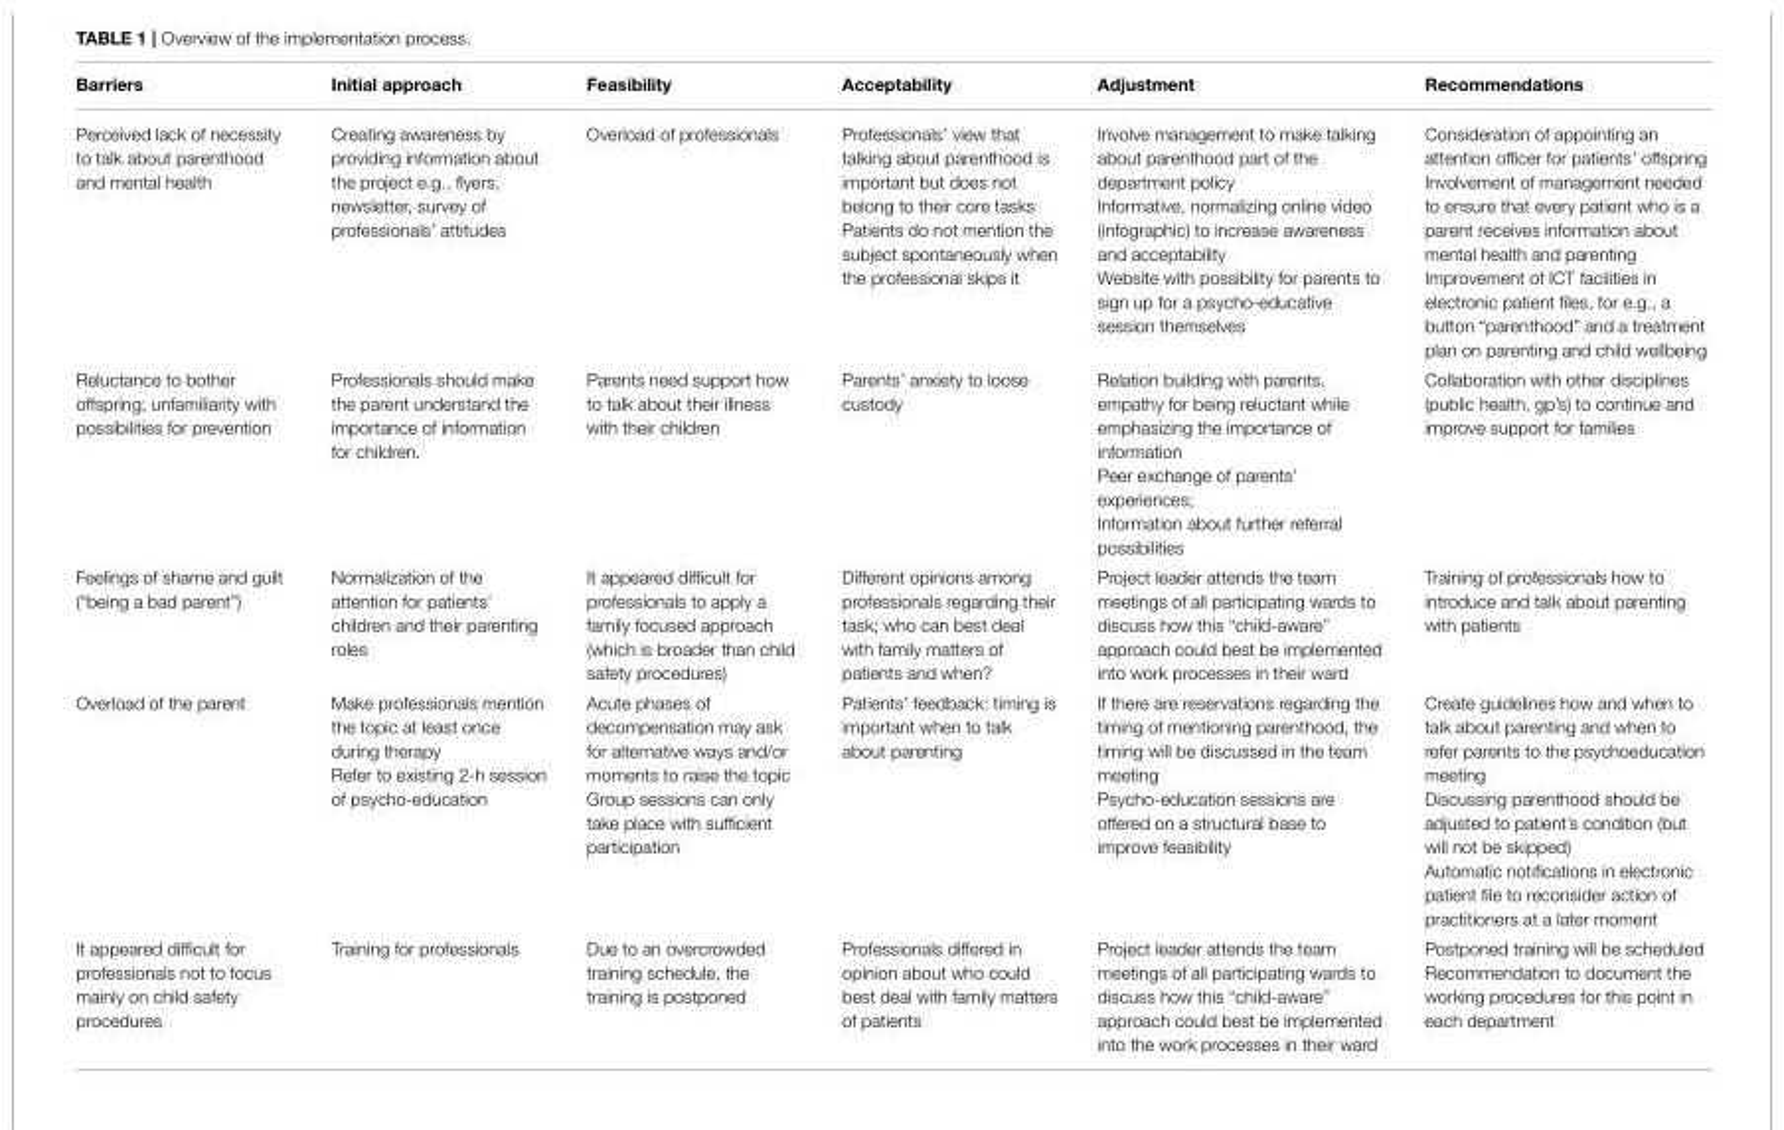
<table><thead><tr><td>Barriers</td><td>Initial approach</td><td>Feasibility</td><td>Acceptability</td><td>Adjustment</td><td>Recommendations</td></tr></thead><tbody><tr><td>Perceived lack of necessity to talk about parenthood and mental health</td><td>Creating awareness by providing information about the project e.g., flyers, newsletter, survey of professionals’ attitudes</td><td>Overload of professionals</td><td>Professionals’ view that talking about parenthood is important but does not belong to their core tasks Patients do not mention the subject spontaneously when the professional skips it</td><td>Involve management to make talking about parenthood part of the department policy Informative, normalizing online video (infographic) to increase awareness and acceptability Website with possibility for parents to sign up for a psycho-educative session themselves</td><td>Consideration of appointing an attention officer for patients’ offspring Involvement of management needed to ensure that every patient who is a parent receives information about mental health and parenting Improvement of ICT facilities in electronic patient files, for e.g., a button “parenthood” and a treatment plan on parenting and child wellbeing</td></tr><tr><td>Reluctance to bother offspring; unfamiliarity with possibilities for prevention</td><td>Professionals should make the parent understand the importance of information for children.</td><td>Parents need support how to talk about their illness with their children</td><td>Parents’ anxiety to loose custody</td><td>Relation building with parents, empathy for being reluctant while emphasizing the importance of information Peer exchange of parents’ experiences; Information about further referral possibilities</td><td>Collaboration with other disciplines (public health, gp’s) to continue and improve support for families</td></tr><tr><td>Feelings of shame and guilt (“being a bad parent”)</td><td>Normalization of the attention for patients’ children and their parenting roles</td><td>It appeared difficult for professionals to apply a family focused approach (which is broader than child safety procedures)</td><td>Different opinions among professionals regarding their task; who can best deal with family matters of patients and when?</td><td>Project leader attends the team meetings of all participating wards to discuss how this “child-aware” approach could best be implemented into work processes in their ward</td><td>Training of professionals how to introduce and talk about parenting with patients</td></tr><tr><td>Overload of the parent</td><td>Make professionals mention the topic at least once during therapy Refer to existing 2-h session of psycho-education</td><td>Acute phases of decompensation may ask for alternative ways and/or moments to raise the topic Group sessions can only take place with sufficient participation</td><td>Patients’ feedback: timing is important when to talk about parenting</td><td>If there are reservations regarding the timing of mentioning parenthood, the timing will be discussed in the team meeting Psycho-education sessions are offered on a structural base to improve feasibility</td><td>Create guidelines how and when to talk about parenting and when to refer parents to the psychoeducation meeting Discussing parenthood should be adjusted to patient’s condition (but will not be skipped) Automatic notifications in electronic patient file to reconsider action of practitioners at a later moment</td></tr><tr><td>It appeared difficult for professionals not to focus mainly on child safety procedures</td><td>Training for professionals</td><td>Due to an overcrowded training schedule, the training is postponed</td><td>Professionals differed in opinion about who could best deal with family matters of patients</td><td>Project leader attends the team meetings of all participating wards to discuss how this “child-aware” approach could best be implemented into the work processes in their ward</td><td>Postponed training will be scheduled Recommendation to document the working procedures for this point in each department</td></tr></tbody></table>